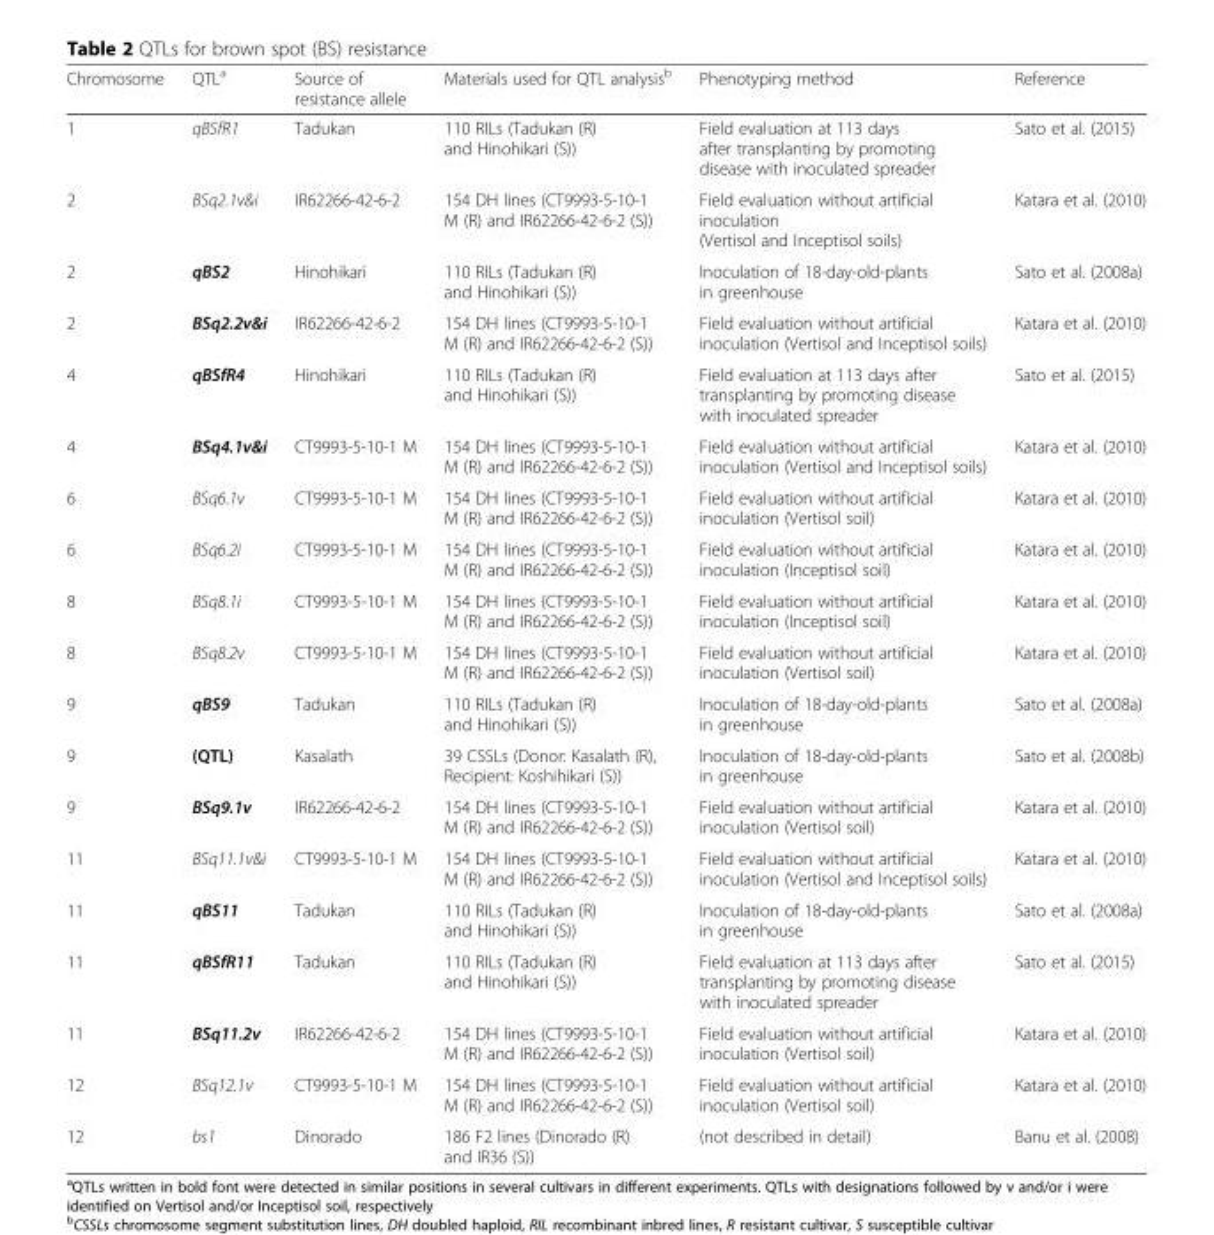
<table><thead><tr><td>Chromosome</td><td>QTL<sup>a</sup></td><td>Source of resistance allele</td><td>Materials used for QTL analysis<sup>b</sup></td><td>Phenotyping method</td><td>Reference</td></tr></thead><tbody><tr><td>1</td><td>qBSfR1</td><td>Tadukan</td><td>110 RILs (Tadukan (R) and Hinohikari (S))</td><td>Field evaluation at 113 days after transplanting by promoting disease with inoculated spreader</td><td>Sato et al. (2015)</td></tr><tr><td>2</td><td>BSq2.1v&amp;i</td><td>IR62266-42-6-2</td><td>154 DH lines (CT9993-5-10-1 M (R) and IR62266-42-6-2 (S))</td><td>Field evaluation without artificial inoculation (Vertisol and Inceptisol soils)</td><td>Katara et al. (2010)</td></tr><tr><td>2</td><td>qBS2</td><td>Hinohikari</td><td>110 RILs (Tadukan (R) and Hinohikari (S))</td><td>Inoculation of 18-day-old-plants in greenhouse</td><td>Sato et al. (2008a)</td></tr><tr><td>2</td><td>BSq2.2v&amp;i</td><td>IR62266-42-6-2</td><td>154 DH lines (CT9993-5-10-1 M (R) and IR62266-42-6-2 (S))</td><td>Field evaluation without artificial inoculation (Vertisol and Inceptisol soils)</td><td>Katara et al. (2010)</td></tr><tr><td>4</td><td>qBSfR4</td><td>Hinohikari</td><td>110 RILs (Tadukan (R) and Hinohikari (S))</td><td>Field evaluation at 113 days after transplanting by promoting disease with inoculated spreader</td><td>Sato et al. (2015)</td></tr><tr><td>4</td><td>BSq4.1v&amp;i</td><td>CT9993-5-10-1 M</td><td>154 DH lines (CT9993-5-10-1 M (R) and IR62266-42-6-2 (S))</td><td>Field evaluation without artificial inoculation (Vertisol and Inceptisol soils)</td><td>Katara et al. (2010)</td></tr><tr><td>6</td><td>BSq6.1v</td><td>CT9993-5-10-1 M</td><td>154 DH lines (CT9993-5-10-1 M (R) and IR62266-42-6-2 (S))</td><td>Field evaluation without artificial inoculation (Vertisol soil)</td><td>Katara et al. (2010)</td></tr><tr><td>6</td><td>BSq6.2i</td><td>CT9993-5-10-1 M</td><td>154 DH lines (CT9993-5-10-1 M (R) and IR62266-42-6-2 (S))</td><td>Field evaluation without artificial inoculation (Inceptisol soil)</td><td>Katara et al. (2010)</td></tr><tr><td>8</td><td>BSq8.1i</td><td>CT9993-5-10-1 M</td><td>154 DH lines (CT9993-5-10-1 M (R) and IR62266-42-6-2 (S))</td><td>Field evaluation without artificial inoculation (Inceptisol soil)</td><td>Katara et al. (2010)</td></tr><tr><td>8</td><td>BSq8.2v</td><td>CT9993-5-10-1 M</td><td>154 DH lines (CT9993-5-10-1 M (R) and IR62266-42-6-2 (S))</td><td>Field evaluation without artificial inoculation (Vertisol soil)</td><td>Katara et al. (2010)</td></tr><tr><td>9</td><td>qBS9</td><td>Tadukan</td><td>110 RILs (Tadukan (R) and Hinohikari (S))</td><td>Inoculation of 18-day-old-plants in greenhouse</td><td>Sato et al. (2008a)</td></tr><tr><td>9</td><td>(QTL)</td><td>Kasalath</td><td>39 CSSLs (Donor: Kasalath (R), Recipient: Koshihikari (S))</td><td>Inoculation of 18-day-old-plants in greenhouse</td><td>Sato et al. (2008b)</td></tr><tr><td>9</td><td>BSq9.1v</td><td>IR62266-42-6-2</td><td>154 DH lines (CT9993-5-10-1 M (R) and IR62266-42-6-2 (S))</td><td>Field evaluation without artificial inoculation (Vertisol soil)</td><td>Katara et al. (2010)</td></tr><tr><td>11</td><td>BSq11.1v&amp;i</td><td>CT9993-5-10-1 M</td><td>154 DH lines (CT9993-5-10-1 M (R) and IR62266-42-6-2 (S))</td><td>Field evaluation without artificial inoculation (Vertisol and Inceptisol soils)</td><td>Katara et al. (2010)</td></tr><tr><td>11</td><td>qBS11</td><td>Tadukan</td><td>110 RILs (Tadukan (R) and Hinohikari (S))</td><td>Inoculation of 18-day-old-plants in greenhouse</td><td>Sato et al. (2008a)</td></tr><tr><td>11</td><td>qBSfR11</td><td>Tadukan</td><td>110 RILs (Tadukan (R) and Hinohikari (S))</td><td>Field evaluation at 113 days after transplanting by promoting disease with inoculated spreader</td><td>Sato et al. (2015)</td></tr><tr><td>11</td><td>BSq11.2v</td><td>IR62266-42-6-2</td><td>154 DH lines (CT9993-5-10-1 M (R) and IR62266-42-6-2 (S))</td><td>Field evaluation without artificial inoculation (Vertisol soil)</td><td>Katara et al. (2010)</td></tr><tr><td>12</td><td>BSq12.1v</td><td>CT9993-5-10-1 M</td><td>154 DH lines (CT9993-5-10-1 M (R) and IR62266-42-6-2 (S))</td><td>Field evaluation without artificial inoculation (Vertisol soil)</td><td>Katara et al. (2010)</td></tr><tr><td>12</td><td>bs1</td><td>Dinorado</td><td>186 F2 lines (Dinorado (R) and IR36 (S))</td><td>(not described in detail)</td><td>Banu et al. (2008)</td></tr></tbody></table>